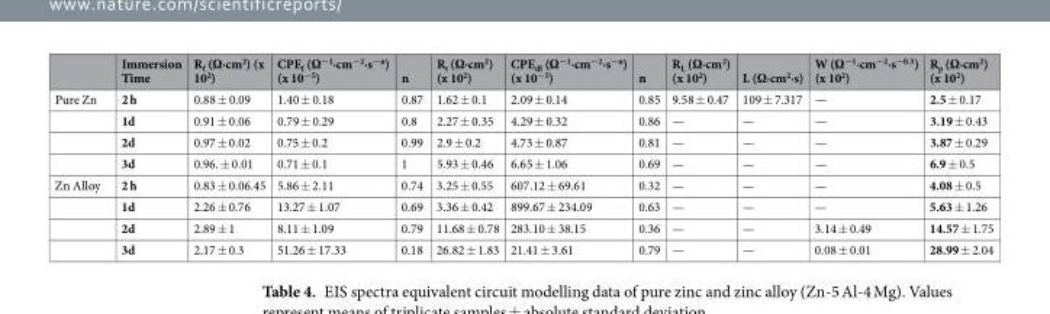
<table><thead><tr><td></td><td>Immersion Time</td><td>R<sub>f</sub> (Ω∙cm<sup>2</sup>) (x 10<sup>2</sup>)</td><td>CPE<sub>f</sub> (Ω<sup>−1</sup>∙cm<sup>−2</sup>∙s<sup>−n</sup>) (x 10<sup>−5</sup>)</td><td>n</td><td>R<sub>t</sub> (Ω∙cm<sup>2</sup>) (x 10<sup>2</sup>)</td><td>CPE<sub>dl</sub> (Ω<sup>−1</sup>∙cm<sup>−2</sup>∙s<sup>−n</sup>) (x 10<sup>−5</sup>)</td><td>n</td><td>R<sub>L</sub> (Ω∙cm<sup>2</sup>) (x 10<sup>2</sup>)</td><td>L (Ω∙cm<sup>2</sup>∙s)</td><td>W (Ω<sup>−1</sup>∙cm<sup>−2</sup>∙s<sup>−0.5</sup>) (x 10<sup>2</sup>)</td><td>R<sub>p</sub> (Ω∙cm<sup>2</sup>) (x 10<sup>2</sup>)</td></tr></thead><tbody><tr><td rowspan="4">Pure Zn</td><td>2 h</td><td>0.88 ± 0.09</td><td>1.40 ± 0.18</td><td>0.87</td><td>1.62 ± 0.1</td><td>2.09 ± 0.14</td><td>0.85</td><td>9.58 ± 0.47</td><td>109 ± 7.317</td><td>—</td><td>2.5 ± 0.17</td></tr><tr><td>1d</td><td>0.91 ± 0.06</td><td>0.79 ± 0.29</td><td>0.8</td><td>2.27 ± 0.35</td><td>4.29 ± 0.32</td><td>0.86</td><td>—</td><td>—</td><td>—</td><td>3.19 ± 0.43</td></tr><tr><td>2d</td><td>0.97 ± 0.02</td><td>0.75 ± 0.2</td><td>0.99</td><td>2.9 ± 0.2</td><td>4.73 ± 0.87</td><td>0.81</td><td>—</td><td>—</td><td>—</td><td>3.87 ± 0.29</td></tr><tr><td>3d</td><td>0.96. ± 0.01</td><td>0.71 ± 0.1</td><td>1</td><td>5.93 ± 0.46</td><td>6.65 ± 1.06</td><td>0.69</td><td>—</td><td>—</td><td>—</td><td>6.9 ± 0.5</td></tr><tr><td rowspan="4">Zn Alloy</td><td>2 h</td><td>0.83 ± 0.06.45</td><td>5.86 ± 2.11</td><td>0.74</td><td>3.25 ± 0.55</td><td>607.12 ± 69.61</td><td>0.32</td><td>—</td><td>—</td><td>—</td><td>4.08 ± 0.5</td></tr><tr><td>1d</td><td>2.26 ± 0.76</td><td>13.27 ± 1.07</td><td>0.69</td><td>3.36 ± 0.42</td><td>899.67 ± 234.09</td><td>0.63</td><td>—</td><td>—</td><td>—</td><td>5.63 ± 1.26</td></tr><tr><td>2d</td><td>2.89 ± 1</td><td>8.11 ± 1.09</td><td>0.79</td><td>11.68 ± 0.78</td><td>283.10 ± 38.15</td><td>0.36</td><td>—</td><td>—</td><td>3.14 ± 0.49</td><td>14.57 ± 1.75</td></tr><tr><td>3d</td><td>2.17 ± 0.3</td><td>51.26 ± 17.33</td><td>0.18</td><td>26.82 ± 1.83</td><td>21.41 ± 3.61</td><td>0.79</td><td>—</td><td>—</td><td>0.08 ± 0.01</td><td>28.99 ± 2.04</td></tr></tbody></table>